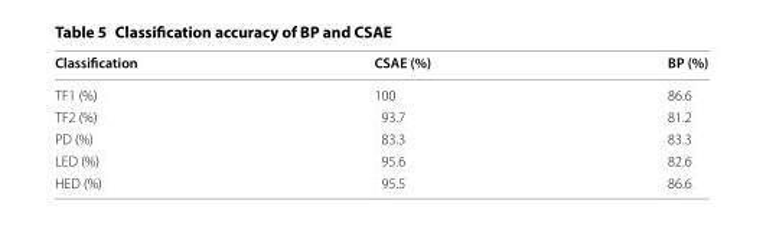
<table><thead><tr><td>Classification</td><td>CSAE (%)</td><td>BP (%)</td></tr></thead><tbody><tr><td>TF1 (%)</td><td>100</td><td>86.6</td></tr><tr><td>TF2 (%)</td><td>93.7</td><td>81.2</td></tr><tr><td>PD (%)</td><td>83.3</td><td>83.3</td></tr><tr><td>LED (%)</td><td>95.6</td><td>82.6</td></tr><tr><td>HED (%)</td><td>95.5</td><td>86.6</td></tr></tbody></table>